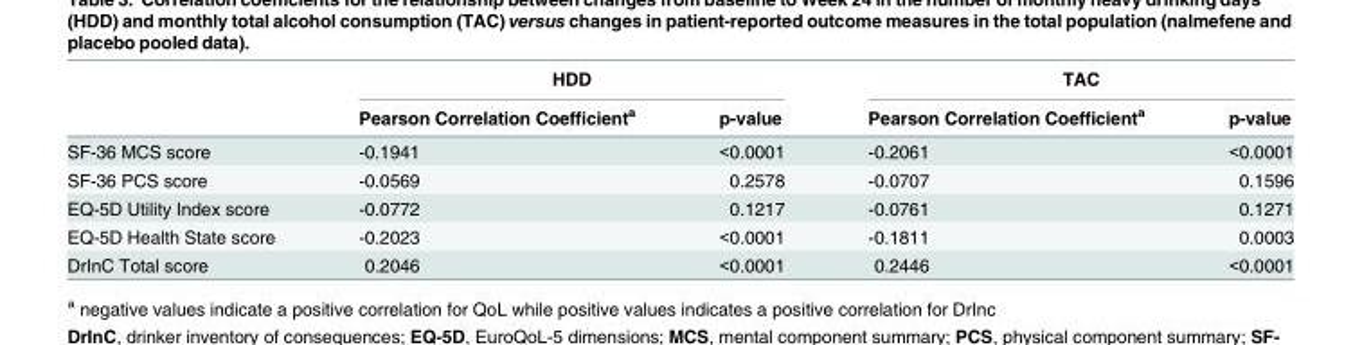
<table><thead><tr><td rowspan="2"></td><td colspan="2">HDD</td><td colspan="2">TAC</td></tr><tr><td>Pearson Correlation Coefficient<sup>a</sup></td><td>p-value</td><td>Pearson Correlation Coefficient<sup>a</sup></td><td>p-value</td></tr></thead><tbody><tr><td>SF-36 MCS score</td><td>-0.1941</td><td>&lt;0.0001</td><td>-0.2061</td><td>&lt;0.0001</td></tr><tr><td>SF-36 PCS score</td><td>-0.0569</td><td>0.2578</td><td>-0.0707</td><td>0.1596</td></tr><tr><td>EQ-5D Utility Index score</td><td>-0.0772</td><td>0.1217</td><td>-0.0761</td><td>0.1271</td></tr><tr><td>EQ-5D Health State score</td><td>-0.2023</td><td>&lt;0.0001</td><td>-0.1811</td><td>0.0003</td></tr><tr><td>DrInC Total score</td><td>0.2046</td><td>&lt;0.0001</td><td>0.2446</td><td>&lt;0.0001</td></tr></tbody></table>